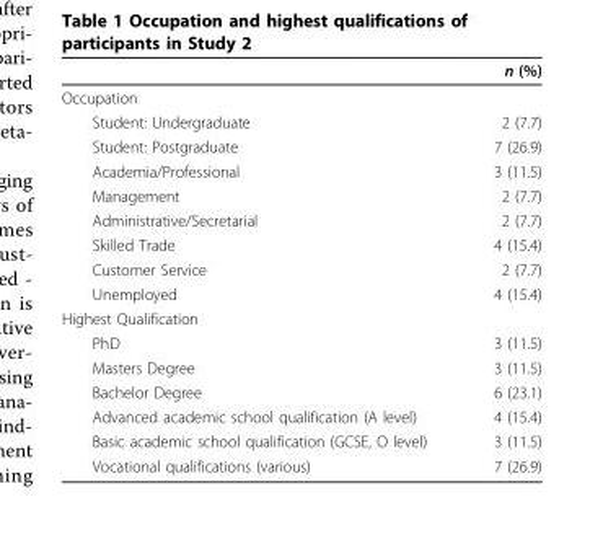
<table><thead><tr><td></td><td>n (%)</td></tr></thead><tbody><tr><td colspan="2">Occupation</td></tr><tr><td>Student: Undergraduate</td><td>2 (7.7)</td></tr><tr><td>Student: Postgraduate</td><td>7 (26.9)</td></tr><tr><td>Academia/Professional</td><td>3 (11.5)</td></tr><tr><td>Management</td><td>2 (7.7)</td></tr><tr><td>Administrative/Secretarial</td><td>2 (7.7)</td></tr><tr><td>Skilled Trade</td><td>4 (15.4)</td></tr><tr><td>Customer Service</td><td>2 (7.7)</td></tr><tr><td>Unemployed</td><td>4 (15.4)</td></tr><tr><td colspan="2">Highest Qualification</td></tr><tr><td>PhD</td><td>3 (11.5)</td></tr><tr><td>Masters Degree</td><td>3 (11.5)</td></tr><tr><td>Bachelor Degree</td><td>6 (23.1)</td></tr><tr><td>Advanced academic school qualification (A level)</td><td>4 (15.4)</td></tr><tr><td>Basic academic school qualification (GCSE, O level)</td><td>3 (11.5)</td></tr><tr><td>Vocational qualifications (various)</td><td>7 (26.9)</td></tr></tbody></table>